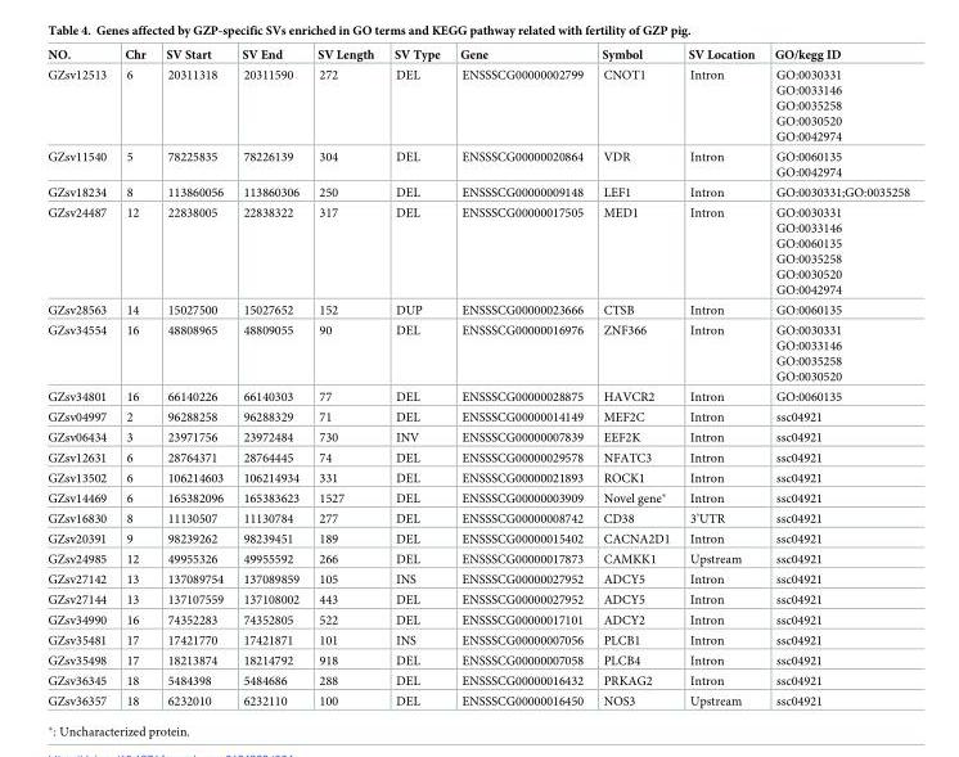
<table><thead><tr><td>NO.</td><td>Chr</td><td>SV Start</td><td>SV End</td><td>SV Length</td><td>SV Type</td><td>Gene</td><td>Symbol</td><td>SV Location</td><td>GO/kegg ID</td></tr></thead><tbody><tr><td>GZsv12513</td><td>6</td><td>20311318</td><td>20311590</td><td>272</td><td>DEL</td><td>ENSSSCG00000002799</td><td>CNOT1</td><td>Intron</td><td>GO:0030331 GO:0033146 GO:0035258 GO:0030520 GO:0042974</td></tr><tr><td>GZsv11540</td><td>5</td><td>78225835</td><td>78226139</td><td>304</td><td>DEL</td><td>ENSSSCG00000020864</td><td>VDR</td><td>Intron</td><td>GO:0060135 GO:0042974</td></tr><tr><td>GZsv18234</td><td>8</td><td>113860056</td><td>113860306</td><td>250</td><td>DEL</td><td>ENSSSCG00000009148</td><td>LEF1</td><td>Intron</td><td>GO:0030331;GO:0035258</td></tr><tr><td>GZsv24487</td><td>12</td><td>22838005</td><td>22838322</td><td>317</td><td>DEL</td><td>ENSSSCG00000017505</td><td>MED1</td><td>Intron</td><td>GO:0030331 GO:0033146 GO:0060135 GO:0035258 GO:0030520 GO:0042974</td></tr><tr><td>GZsv28563</td><td>14</td><td>15027500</td><td>15027652</td><td>152</td><td>DUP</td><td>ENSSSCG00000023666</td><td>CTSB</td><td>Intron</td><td>GO:0060135</td></tr><tr><td>GZsv34554</td><td>16</td><td>48808965</td><td>48809055</td><td>90</td><td>DEL</td><td>ENSSSCG00000016976</td><td>ZNF366</td><td>Intron</td><td>GO:0030331 GO:0033146 GO:0035258 GO:0030520</td></tr><tr><td>GZsv34801</td><td>16</td><td>66140226</td><td>66140303</td><td>77</td><td>DEL</td><td>ENSSSCG00000028875</td><td>HAVCR2</td><td>Intron</td><td>GO:0060135</td></tr><tr><td>GZsv04997</td><td>2</td><td>96288258</td><td>96288329</td><td>71</td><td>DEL</td><td>ENSSSCG00000014149</td><td>MEF2C</td><td>Intron</td><td>ssc04921</td></tr><tr><td>GZsv06434</td><td>3</td><td>23971756</td><td>23972484</td><td>730</td><td>INV</td><td>ENSSSCG00000007839</td><td>EEF2K</td><td>Intron</td><td>ssc04921</td></tr><tr><td>GZsv12631</td><td>6</td><td>28764371</td><td>28764445</td><td>74</td><td>DEL</td><td>ENSSSCG00000029578</td><td>NFATC3</td><td>Intron</td><td>ssc04921</td></tr><tr><td>GZsv13502</td><td>6</td><td>106214603</td><td>106214934</td><td>331</td><td>DEL</td><td>ENSSSCG00000021893</td><td>ROCK1</td><td>Intron</td><td>ssc04921</td></tr><tr><td>GZsv14469</td><td>6</td><td>165382096</td><td>165383623</td><td>1527</td><td>DEL</td><td>ENSSSCG00000003909</td><td>Novel gene*</td><td>Intron</td><td>ssc04921</td></tr><tr><td>GZsv16830</td><td>8</td><td>11130507</td><td>11130784</td><td>277</td><td>DEL</td><td>ENSSSCG00000008742</td><td>CD38</td><td>3’UTR</td><td>ssc04921</td></tr><tr><td>GZsv20391</td><td>9</td><td>98239262</td><td>98239451</td><td>189</td><td>DEL</td><td>ENSSSCG00000015402</td><td>CACNA2D1</td><td>Intron</td><td>ssc04921</td></tr><tr><td>GZsv24985</td><td>12</td><td>49955326</td><td>49955592</td><td>266</td><td>DEL</td><td>ENSSSCG00000017873</td><td>CAMKK1</td><td>Upstream</td><td>ssc04921</td></tr><tr><td>GZsv27142</td><td>13</td><td>137089754</td><td>137089859</td><td>105</td><td>INS</td><td>ENSSSCG00000027952</td><td>ADCY5</td><td>Intron</td><td>ssc04921</td></tr><tr><td>GZsv27144</td><td>13</td><td>137107559</td><td>137108002</td><td>443</td><td>DEL</td><td>ENSSSCG00000027952</td><td>ADCY5</td><td>Intron</td><td>ssc04921</td></tr><tr><td>GZsv34990</td><td>16</td><td>74352283</td><td>74352805</td><td>522</td><td>DEL</td><td>ENSSSCG00000017101</td><td>ADCY2</td><td>Intron</td><td>ssc04921</td></tr><tr><td>GZsv35481</td><td>17</td><td>17421770</td><td>17421871</td><td>101</td><td>INS</td><td>ENSSSCG00000007056</td><td>PLCB1</td><td>Intron</td><td>ssc04921</td></tr><tr><td>GZsv35498</td><td>17</td><td>18213874</td><td>18214792</td><td>918</td><td>DEL</td><td>ENSSSCG00000007058</td><td>PLCB4</td><td>Intron</td><td>ssc04921</td></tr><tr><td>GZsv36345</td><td>18</td><td>5484398</td><td>5484686</td><td>288</td><td>DEL</td><td>ENSSSCG00000016432</td><td>PRKAG2</td><td>Intron</td><td>ssc04921</td></tr><tr><td>GZsv36357</td><td>18</td><td>6232010</td><td>6232110</td><td>100</td><td>DEL</td><td>ENSSSCG00000016450</td><td>NOS3</td><td>Upstream</td><td>ssc04921</td></tr></tbody></table>